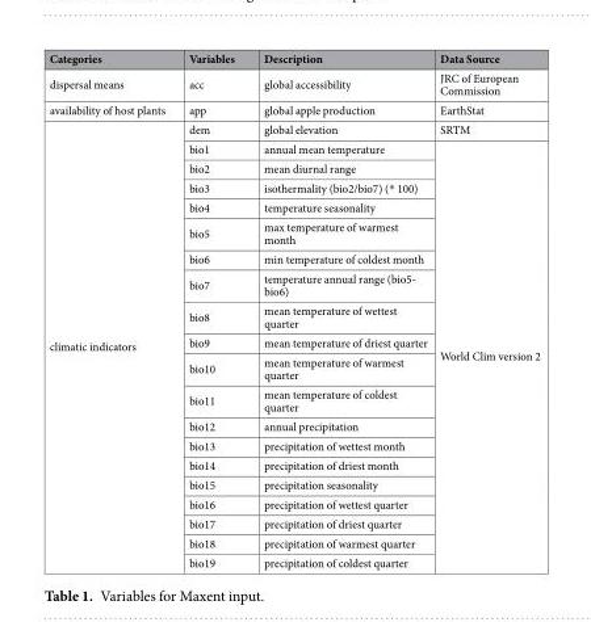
<table><thead><tr><td>Categories</td><td>Variables</td><td>Description</td><td>Data Source</td></tr></thead><tbody><tr><td>dispersal means</td><td>acc</td><td>global accessibility</td><td>JRC of European Commission</td></tr><tr><td>availability of host plants</td><td>app</td><td>global apple production</td><td>EarthStat</td></tr><tr><td rowspan="20">climatic indicators</td><td>dem</td><td>global elevation</td><td>SRTM</td></tr><tr><td>bio1</td><td>annual mean temperature</td><td rowspan="19">World Clim version 2</td></tr><tr><td>bio2</td><td>mean diurnal range</td></tr><tr><td>bio3</td><td>isothermality (bio2/bio7) (* 100)</td></tr><tr><td>bio4</td><td>temperature seasonality</td></tr><tr><td>bio5</td><td>max temperature of warmest month</td></tr><tr><td>bio6</td><td>min temperature of coldest month</td></tr><tr><td>bio7</td><td>temperature annual range (bio5- bio6)</td></tr><tr><td>bio8</td><td>mean temperature of wettest quarter</td></tr><tr><td>bio9</td><td>mean temperature of driest quarter</td></tr><tr><td>bio10</td><td>mean temperature of warmest quarter</td></tr><tr><td>bio11</td><td>mean temperature of coldest quarter</td></tr><tr><td>bio12</td><td>annual precipitation</td></tr><tr><td>bio13</td><td>precipitation of wettest month</td></tr><tr><td>bio14</td><td>precipitation of driest month</td></tr><tr><td>bio15</td><td>precipitation seasonality</td></tr><tr><td>bio16</td><td>precipitation of wettest quarter</td></tr><tr><td>bio17</td><td>precipitation of driest quarter</td></tr><tr><td>bio18</td><td>precipitation of warmest quarter</td></tr><tr><td>bio19</td><td>precipitation of coldest quarter</td></tr></tbody></table>